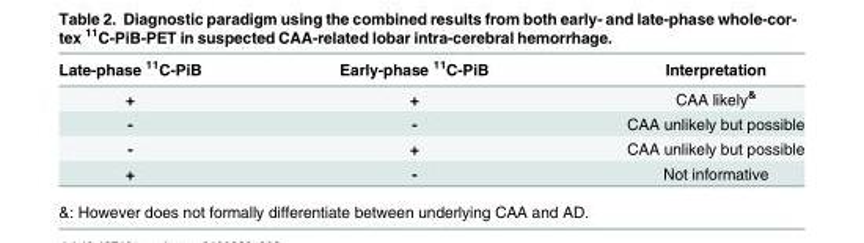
<table><thead><tr><td>Late-phase <sup>11</sup>C-PiB</td><td>Early-phase <sup>11</sup>C-PiB</td><td>Interpretation</td></tr></thead><tbody><tr><td>+</td><td>+</td><td>CAA likely<sup>&amp;</sup></td></tr><tr><td>-</td><td>-</td><td>CAA unlikely but possible</td></tr><tr><td>-</td><td>+</td><td>CAA unlikely but possible</td></tr><tr><td>+</td><td>-</td><td>Not informative</td></tr></tbody></table>